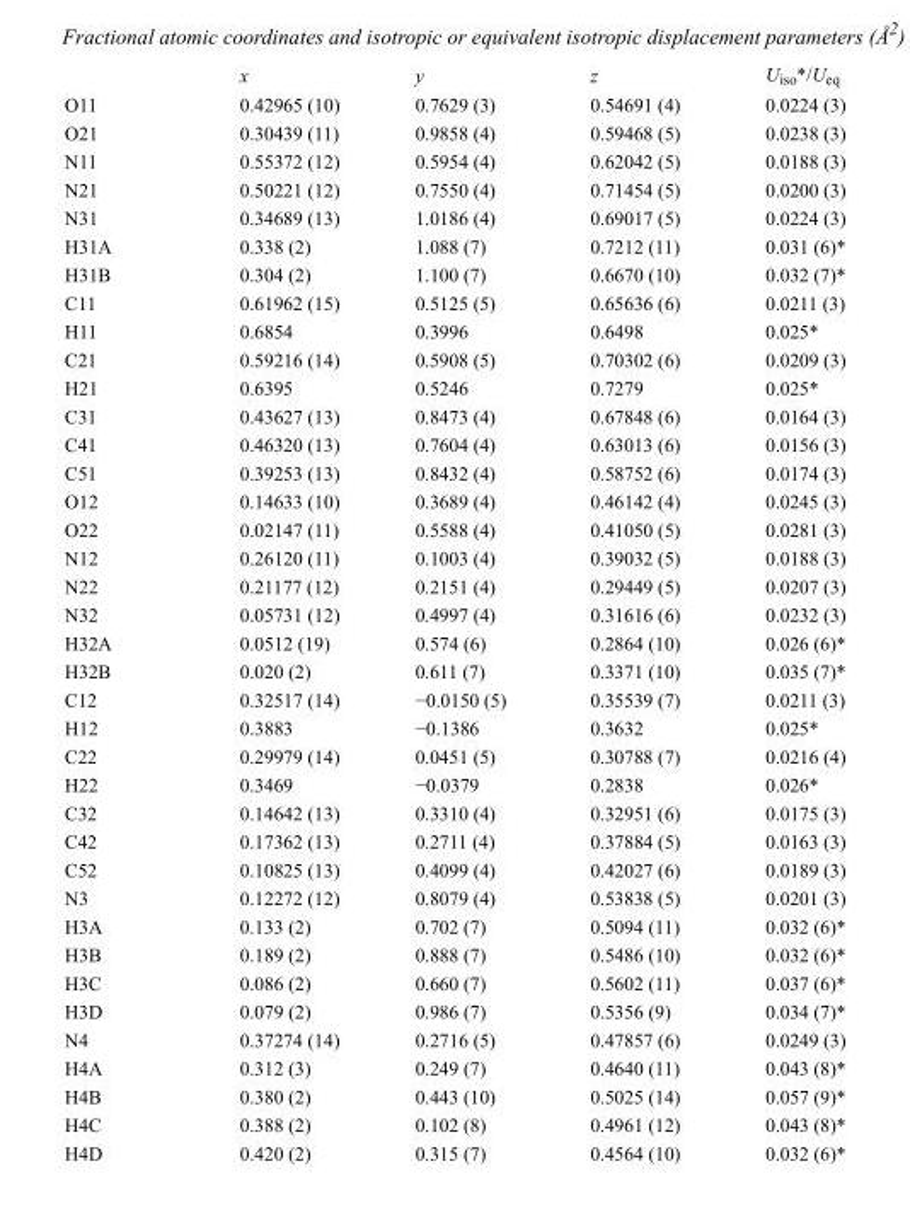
<table><thead><tr><td></td><td>x</td><td>y</td><td>z</td><td>U<sub>iso</sub>*/U<sub>eq</sub></td></tr></thead><tbody><tr><td>O11</td><td>0.42965 (10)</td><td>0.7629 (3)</td><td>0.54691 (4)</td><td>0.0224 (3)</td></tr><tr><td>O21</td><td>0.30439 (11)</td><td>0.9858 (4)</td><td>0.59468 (5)</td><td>0.0238 (3)</td></tr><tr><td>N11</td><td>0.55372 (12)</td><td>0.5954 (4)</td><td>0.62042 (5)</td><td>0.0188 (3)</td></tr><tr><td>N21</td><td>0.50221 (12)</td><td>0.7550 (4)</td><td>0.71454 (5)</td><td>0.0200 (3)</td></tr><tr><td>N31</td><td>0.34689 (13)</td><td>1.0186 (4)</td><td>0.69017 (5)</td><td>0.0224 (3)</td></tr><tr><td>H31A</td><td>0.338 (2)</td><td>1.088 (7)</td><td>0.7212 (11)</td><td>0.031 (6)*</td></tr><tr><td>H31B</td><td>0.304 (2)</td><td>1.100 (7)</td><td>0.6670 (10)</td><td>0.032 (7)*</td></tr><tr><td>C11</td><td>0.61962 (15)</td><td>0.5125 (5)</td><td>0.65636 (6)</td><td>0.0211 (3)</td></tr><tr><td>H11</td><td>0.6854</td><td>0.3996</td><td>0.6498</td><td>0.025*</td></tr><tr><td>C21</td><td>0.59216 (14)</td><td>0.5908 (5)</td><td>0.70302 (6)</td><td>0.0209 (3)</td></tr><tr><td>H21</td><td>0.6395</td><td>0.5246</td><td>0.7279</td><td>0.025*</td></tr><tr><td>C31</td><td>0.43627 (13)</td><td>0.8473 (4)</td><td>0.67848 (6)</td><td>0.0164 (3)</td></tr><tr><td>C41</td><td>0.46320 (13)</td><td>0.7604 (4)</td><td>0.63013 (6)</td><td>0.0156 (3)</td></tr><tr><td>C51</td><td>0.39253 (13)</td><td>0.8432 (4)</td><td>0.58752 (6)</td><td>0.0174 (3)</td></tr><tr><td>O12</td><td>0.14633 (10)</td><td>0.3689 (4)</td><td>0.46142 (4)</td><td>0.0245 (3)</td></tr><tr><td>O22</td><td>0.02147 (11)</td><td>0.5588 (4)</td><td>0.41050 (5)</td><td>0.0281 (3)</td></tr><tr><td>N12</td><td>0.26120 (11)</td><td>0.1003 (4)</td><td>0.39032 (5)</td><td>0.0188 (3)</td></tr><tr><td>N22</td><td>0.21177 (12)</td><td>0.2151 (4)</td><td>0.29449 (5)</td><td>0.0207 (3)</td></tr><tr><td>N32</td><td>0.05731 (12)</td><td>0.4997 (4)</td><td>0.31616 (6)</td><td>0.0232 (3)</td></tr><tr><td>H32A</td><td>0.0512 (19)</td><td>0.574 (6)</td><td>0.2864 (10)</td><td>0.026 (6)*</td></tr><tr><td>H32B</td><td>0.020 (2)</td><td>0.611 (7)</td><td>0.3371 (10)</td><td>0.035 (7)*</td></tr><tr><td>C12</td><td>0.32517 (14)</td><td>−0.0150 (5)</td><td>0.35539 (7)</td><td>0.0211 (3)</td></tr><tr><td>H12</td><td>0.3883</td><td>−0.1386</td><td>0.3632</td><td>0.025*</td></tr><tr><td>C22</td><td>0.29979 (14)</td><td>0.0451 (5)</td><td>0.30788 (7)</td><td>0.0216 (4)</td></tr><tr><td>H22</td><td>0.3469</td><td>−0.0379</td><td>0.2838</td><td>0.026*</td></tr><tr><td>C32</td><td>0.14642 (13)</td><td>0.3310 (4)</td><td>0.32951 (6)</td><td>0.0175 (3)</td></tr><tr><td>C42</td><td>0.17362 (13)</td><td>0.2711 (4)</td><td>0.37884 (5)</td><td>0.0163 (3)</td></tr><tr><td>C52</td><td>0.10825 (13)</td><td>0.4099 (4)</td><td>0.42027 (6)</td><td>0.0189 (3)</td></tr><tr><td>N3</td><td>0.12272 (12)</td><td>0.8079 (4)</td><td>0.53838 (5)</td><td>0.0201 (3)</td></tr><tr><td>H3A</td><td>0.133 (2)</td><td>0.702 (7)</td><td>0.5094 (11)</td><td>0.032 (6)*</td></tr><tr><td>H3B</td><td>0.189 (2)</td><td>0.888 (7)</td><td>0.5486 (10)</td><td>0.032 (6)*</td></tr><tr><td>H3C</td><td>0.086 (2)</td><td>0.660 (7)</td><td>0.5602 (11)</td><td>0.037 (6)*</td></tr><tr><td>H3D</td><td>0.079 (2)</td><td>0.986 (7)</td><td>0.5356 (9)</td><td>0.034 (7)*</td></tr><tr><td>N4</td><td>0.37274 (14)</td><td>0.2716 (5)</td><td>0.47857 (6)</td><td>0.0249 (3)</td></tr><tr><td>H4A</td><td>0.312 (3)</td><td>0.249 (7)</td><td>0.4640 (11)</td><td>0.043 (8)*</td></tr><tr><td>H4B</td><td>0.380 (2)</td><td>0.443 (10)</td><td>0.5025 (14)</td><td>0.057 (9)*</td></tr><tr><td>H4C</td><td>0.388 (2)</td><td>0.102 (8)</td><td>0.4961 (12)</td><td>0.043 (8)*</td></tr><tr><td>H4D</td><td>0.420 (2)</td><td>0.315 (7)</td><td>0.4564 (10)</td><td>0.032 (6)*</td></tr></tbody></table>